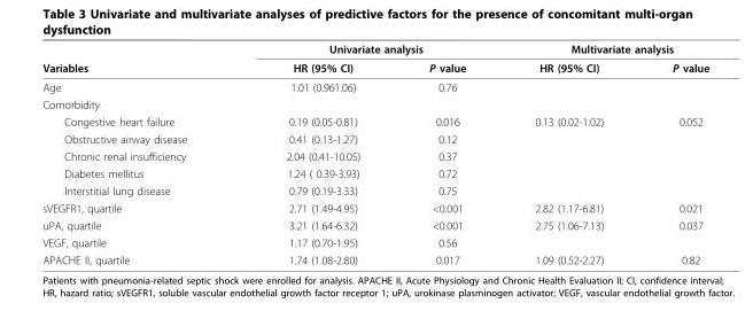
<table><thead><tr><td rowspan="2">Variables</td><td colspan="2">Univariate analysis</td><td colspan="2">Multivariate analysis</td></tr><tr><td>HR (95% CI)</td><td>P value</td><td>HR (95% CI)</td><td>P value</td></tr></thead><tbody><tr><td>Age</td><td>1.01 (0.961.06)</td><td>0.76</td><td></td><td></td></tr><tr><td colspan="5">Comorbidity</td></tr><tr><td>Congestive heart failure</td><td>0.19 (0.05-0.81)</td><td>0.016</td><td>0.13 (0.02-1.02)</td><td>0.052</td></tr><tr><td>Obstructive airway disease</td><td>0.41 (0.13-1.27)</td><td>0.12</td><td></td><td></td></tr><tr><td>Chronic renal insufficiency</td><td>2.04 (0.41-10.05)</td><td>0.37</td><td></td><td></td></tr><tr><td>Diabetes mellitus</td><td>1.24 ( 0.39-3.93)</td><td>0.72</td><td></td><td></td></tr><tr><td>Interstitial lung disease</td><td>0.79 (0.19-3.33)</td><td>0.75</td><td></td><td></td></tr><tr><td>sVEGFR1, quartile</td><td>2.71 (1.49-4.95)</td><td>&lt;0.001</td><td>2.82 (1.17-6.81)</td><td>0.021</td></tr><tr><td>uPA, quartile</td><td>3.21 (1.64-6.32)</td><td>&lt;0.001</td><td>2.75 (1.06-7.13)</td><td>0.037</td></tr><tr><td>VEGF, quartile</td><td>1.17 (0.70-1.95)</td><td>0.56</td><td></td><td></td></tr><tr><td>APACHE II, quartile</td><td>1.74 (1.08-2.80)</td><td>0.017</td><td>1.09 (0.52-2.27)</td><td>0.82</td></tr></tbody></table>